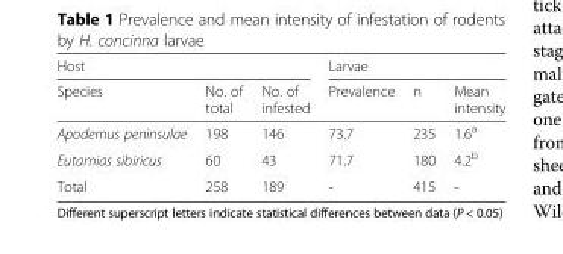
<table><thead><tr><td colspan="3">Host</td><td colspan="3">Larvae</td></tr><tr><td>Species</td><td>No. of total</td><td>No. of infested</td><td>Prevalence</td><td>n</td><td>Mean intensity</td></tr></thead><tbody><tr><td>Apodemus peninsulae</td><td>198</td><td>146</td><td>73.7</td><td>235</td><td>1.6<sup>a</sup></td></tr><tr><td>Eutamias sibiricus</td><td>60</td><td>43</td><td>71.7</td><td>180</td><td>4.2<sup>b</sup></td></tr><tr><td>Total</td><td>258</td><td>189</td><td>-</td><td>415</td><td>-</td></tr></tbody></table>